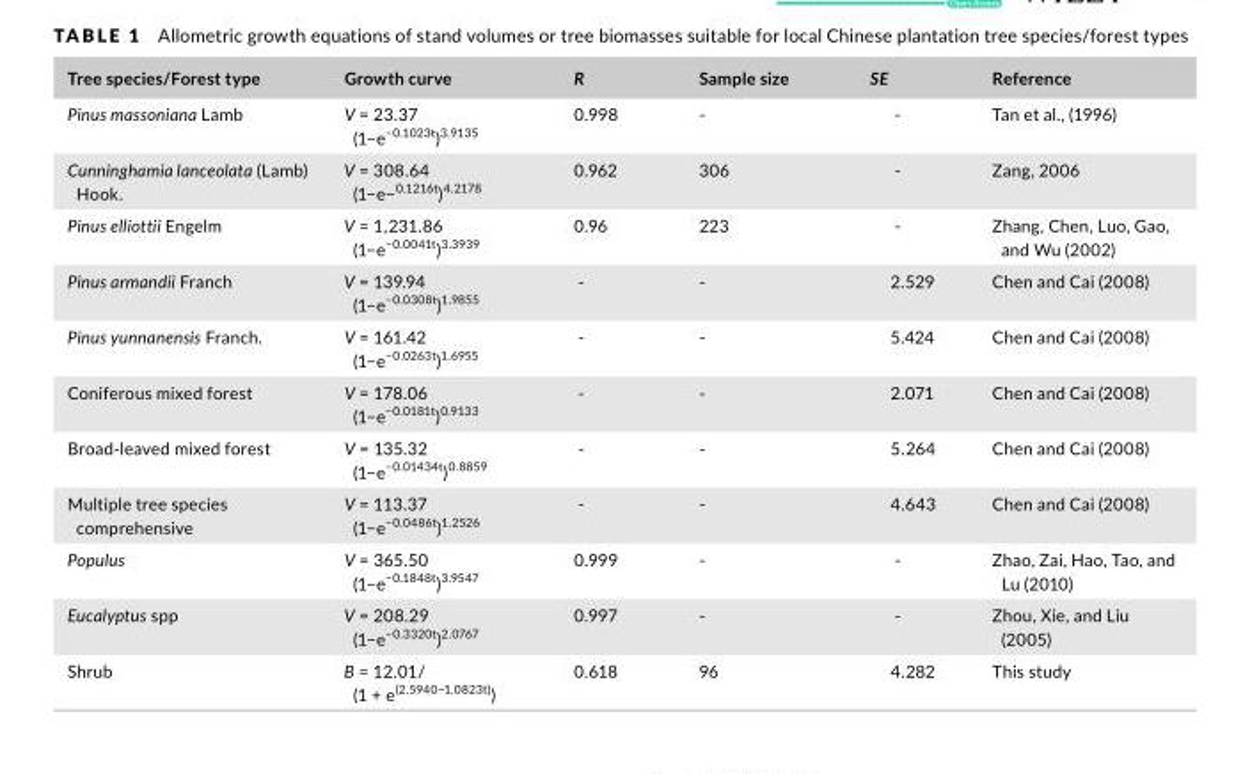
<table><thead><tr><td>Tree species/Forest type</td><td>Growth curve</td><td>R</td><td>Sample size</td><td>SE</td><td>Reference</td></tr></thead><tbody><tr><td>Pinus massoniana Lamb</td><td>V = 23.37 (1−e<sup>−0.1023t</sup>)<sup>3.9135</sup></td><td>0.998</td><td>-</td><td>-</td><td>Tan et al., (1996)</td></tr><tr><td>Cunninghamia lanceolata (Lamb) Hook.</td><td>V = 308.64 (1−e−<sup>0.1216t</sup>)<sup>4.2178</sup></td><td>0.962</td><td>306</td><td>-</td><td>Zang, 2006</td></tr><tr><td>Pinus elliottii Engelm</td><td>V = 1,231.86 (1−e<sup>−0.0041t</sup>)<sup>3.3939</sup></td><td>0.96</td><td>223</td><td>-</td><td>Zhang, Chen, Luo, Gao, and Wu (2002)</td></tr><tr><td>Pinus armandii Franch</td><td>V = 139.94 (1−e<sup>−0.0308t</sup>)<sup>1.9855</sup></td><td>-</td><td>-</td><td>2.529</td><td>Chen and Cai (2008)</td></tr><tr><td>Pinus yunnanensis Franch.</td><td>V = 161.42 (1−e<sup>−0.0263t</sup>)<sup>1.6955</sup></td><td>-</td><td>-</td><td>5.424</td><td>Chen and Cai (2008)</td></tr><tr><td>Coniferous mixed forest</td><td>V = 178.06 (1−e<sup>−0.0181t</sup>)<sup>0.9133</sup></td><td>-</td><td>-</td><td>2.071</td><td>Chen and Cai (2008)</td></tr><tr><td>Broad- leaved mixed forest</td><td>V = 135.32 (1−e<sup>−0.01434t</sup>)<sup>0.8859</sup></td><td>-</td><td>-</td><td>5.264</td><td>Chen and Cai (2008)</td></tr><tr><td>Multiple tree species comprehensive</td><td>V = 113.37 (1−e<sup>−0.0486t</sup>)<sup>1.2526</sup></td><td>-</td><td>-</td><td>4.643</td><td>Chen and Cai (2008)</td></tr><tr><td>Populus</td><td>V = 365.50 (1−e<sup>−0.1848t</sup>)<sup>3.9547</sup></td><td>0.999</td><td>-</td><td>-</td><td>Zhao, Zai, Hao, Tao, and Lu (2010)</td></tr><tr><td>Eucalyptus spp</td><td>V = 208.29 (1−e<sup>−0.3320t</sup>)<sup>2.0767</sup></td><td>0.997</td><td>-</td><td>-</td><td>Zhou, Xie, and Liu (2005)</td></tr><tr><td>Shrub</td><td>B = 12.01/ (1 + e<sup>(2.5940−1.0823t)</sup>)</td><td>0.618</td><td>96</td><td>4.282</td><td>This study</td></tr></tbody></table>